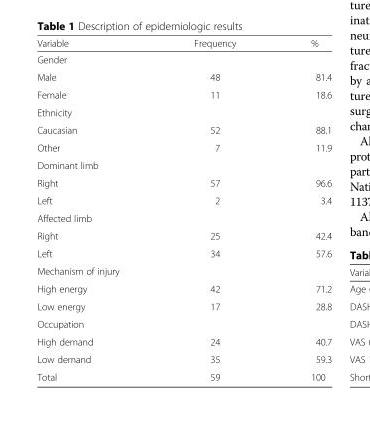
<table><thead><tr><td>Variable</td><td>Frequency</td><td>%</td></tr></thead><tbody><tr><td colspan="3">Gender</td></tr><tr><td>Male</td><td>48</td><td>81.4</td></tr><tr><td>Female</td><td>11</td><td>18.6</td></tr><tr><td colspan="3">Ethnicity</td></tr><tr><td>Caucasian</td><td>52</td><td>88.1</td></tr><tr><td>Other</td><td>7</td><td>11.9</td></tr><tr><td colspan="3">Dominant limb</td></tr><tr><td>Right</td><td>57</td><td>96.6</td></tr><tr><td>Left</td><td>2</td><td>3.4</td></tr><tr><td colspan="3">Affected limb</td></tr><tr><td>Right</td><td>25</td><td>42.4</td></tr><tr><td>Left</td><td>34</td><td>57.6</td></tr><tr><td colspan="3">Mechanism of injury</td></tr><tr><td>High energy</td><td>42</td><td>71.2</td></tr><tr><td>Low energy</td><td>17</td><td>28.8</td></tr><tr><td colspan="3">Occupation</td></tr><tr><td>High demand</td><td>24</td><td>40.7</td></tr><tr><td>Low demand</td><td>35</td><td>59.3</td></tr><tr><td>Total</td><td>59</td><td>100</td></tr></tbody></table>